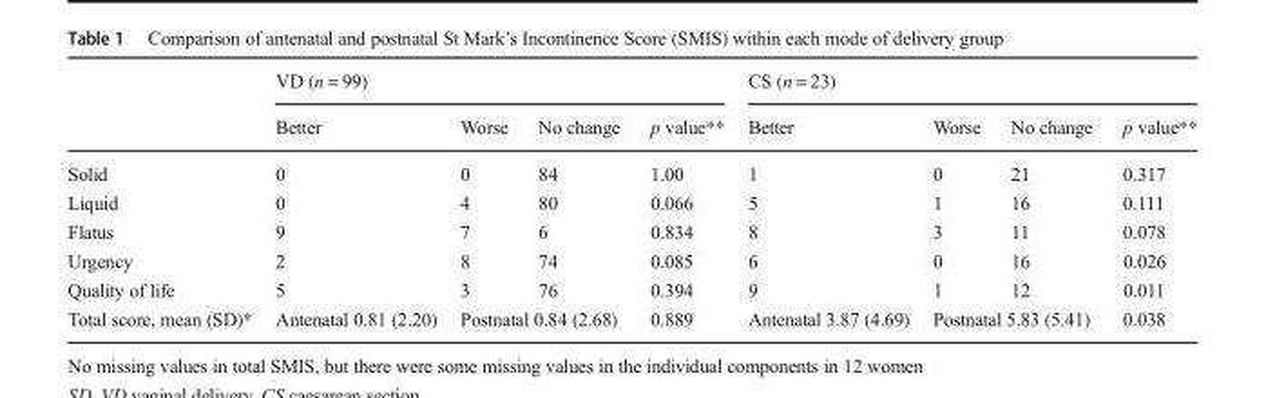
<table><thead><tr><td rowspan="2"></td><td colspan="4">VD (n = 99)</td><td colspan="4">CS (n = 23)</td></tr><tr><td>Better</td><td>Worse</td><td>No change</td><td>p value**</td><td>Better</td><td>Worse</td><td>No change</td><td>p value**</td></tr></thead><tbody><tr><td>Solid</td><td>0</td><td>0</td><td>84</td><td>1.00</td><td>1</td><td>0</td><td>21</td><td>0.317</td></tr><tr><td>Liquid</td><td>0</td><td>4</td><td>80</td><td>0.066</td><td>5</td><td>1</td><td>16</td><td>0.111</td></tr><tr><td>Flatus</td><td>9</td><td>7</td><td>6</td><td>0.834</td><td>8</td><td>3</td><td>11</td><td>0.078</td></tr><tr><td>Urgency</td><td>2</td><td>8</td><td>74</td><td>0.085</td><td>6</td><td>0</td><td>16</td><td>0.026</td></tr><tr><td>Quality of life</td><td>5</td><td>3</td><td>76</td><td>0.394</td><td>9</td><td>1</td><td>12</td><td>0.011</td></tr><tr><td>Total score, mean (SD)*</td><td>Antenatal 0.81 (2.20)</td><td colspan="2">Postnatal 0.84 (2.68)</td><td>0.889</td><td>Antenatal 3.87 (4.69)</td><td colspan="2">Postnatal 5.83 (5.41)</td><td>0.038</td></tr></tbody></table>